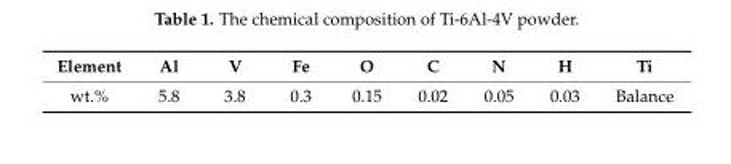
<table><thead><tr><td>Element</td><td>Al</td><td>V</td><td>Fe</td><td>O</td><td>C</td><td>N</td><td>H</td><td>Ti</td></tr></thead><tbody><tr><td>wt.%</td><td>5.8</td><td>3.8</td><td>0.3</td><td>0.15</td><td>0.02</td><td>0.05</td><td>0.03</td><td>Balance</td></tr></tbody></table>